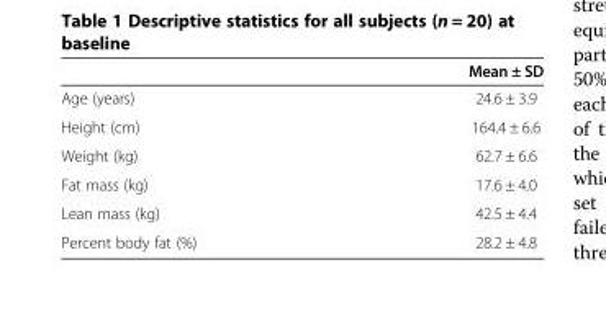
<table><thead><tr><td></td><td>Mean ± SD</td></tr></thead><tbody><tr><td>Age (years)</td><td>24.6 ± 3.9</td></tr><tr><td>Height (cm)</td><td>164.4 ± 6.6</td></tr><tr><td>Weight (kg)</td><td>62.7 ± 6.6</td></tr><tr><td>Fat mass (kg)</td><td>17.6 ± 4.0</td></tr><tr><td>Lean mass (kg)</td><td>42.5 ± 4.4</td></tr><tr><td>Percent body fat (%)</td><td>28.2 ± 4.8</td></tr></tbody></table>